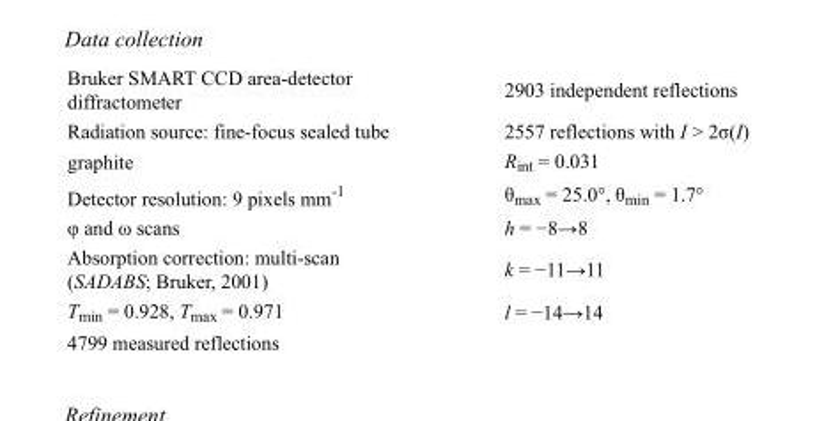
<table><tbody><tr><td>Bruker SMART CCD area-detector diffractometer</td><td>2903 independent reflections</td></tr><tr><td>Radiation source: fine-focus sealed tube</td><td>2557 reflections with I &gt; 2σ(I)</td></tr><tr><td>graphite</td><td>R<sub>int</sub> = 0.031</td></tr><tr><td>Detector resolution: 9 pixels mm<sup>-1</sup></td><td>θ<sub>max</sub> = 25.0°, θ<sub>min</sub> = 1.7°</td></tr><tr><td>φ and ω scans</td><td>h = −8→8</td></tr><tr><td>Absorption correction: multi-scan (SADABS; Bruker, 2001)</td><td>k = −11→11</td></tr><tr><td>T<sub>min</sub> = 0.928, T<sub>max</sub> = 0.971</td><td>l = −14→14</td></tr><tr><td>4799 measured reflections</td><td></td></tr></tbody></table>